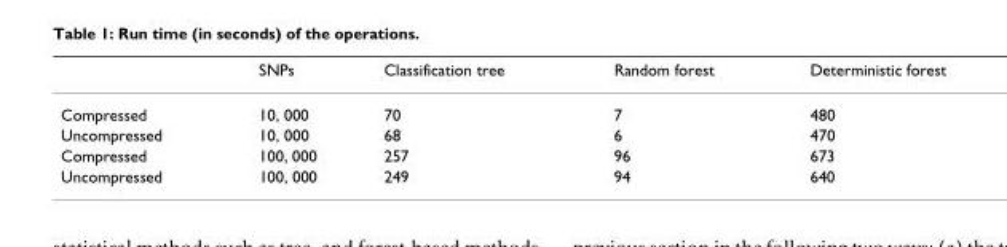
<table><thead><tr><td></td><td>SNPs</td><td>Classification tree</td><td>Random forest</td><td>Deterministic forest</td></tr></thead><tbody><tr><td>Compressed</td><td>10, 000</td><td>70</td><td>7</td><td>480</td></tr><tr><td>Uncompressed</td><td>10, 000</td><td>68</td><td>6</td><td>470</td></tr><tr><td>Compressed</td><td>100, 000</td><td>257</td><td>96</td><td>673</td></tr><tr><td>Uncompressed</td><td>100, 000</td><td>249</td><td>94</td><td>640</td></tr></tbody></table>